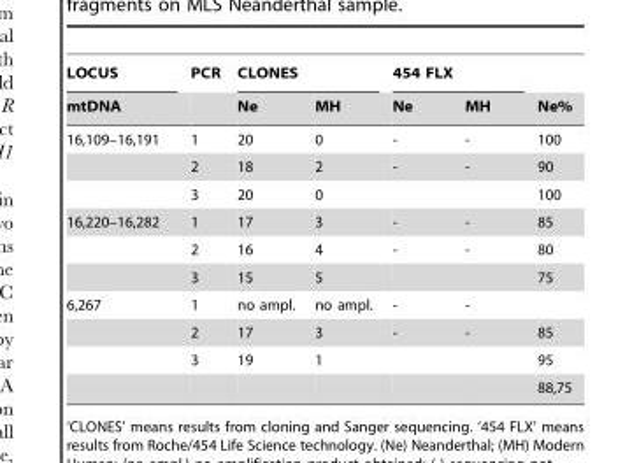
<table><thead><tr><td rowspan="2">LOCUS mtDNA</td><td rowspan="2">PCR</td><td colspan="2">CLONES</td><td colspan="2">454 FLX</td><td rowspan="2">Ne%</td></tr><tr><td>Ne</td><td>MH</td><td>Ne</td><td>MH</td></tr></thead><tbody><tr><td rowspan="3">16,109–16,191</td><td>1</td><td>20</td><td>0</td><td>-</td><td>-</td><td>100</td></tr><tr><td>2</td><td>18</td><td>2</td><td>-</td><td>-</td><td>90</td></tr><tr><td>3</td><td>20</td><td>0</td><td></td><td></td><td>100</td></tr><tr><td rowspan="3">16,220–16,282</td><td>1</td><td>17</td><td>3</td><td>-</td><td>-</td><td>85</td></tr><tr><td>2</td><td>16</td><td>4</td><td>-</td><td>-</td><td>80</td></tr><tr><td>3</td><td>15</td><td>5</td><td></td><td></td><td>75</td></tr><tr><td rowspan="4">6,267</td><td>1</td><td>no ampl.</td><td>no ampl.</td><td>-</td><td>-</td><td></td></tr><tr><td>2</td><td>17</td><td>3</td><td>-</td><td>-</td><td>85</td></tr><tr><td>3</td><td>19</td><td>1</td><td></td><td></td><td>95</td></tr><tr><td></td><td></td><td></td><td></td><td></td><td>88,75</td></tr></tbody></table>